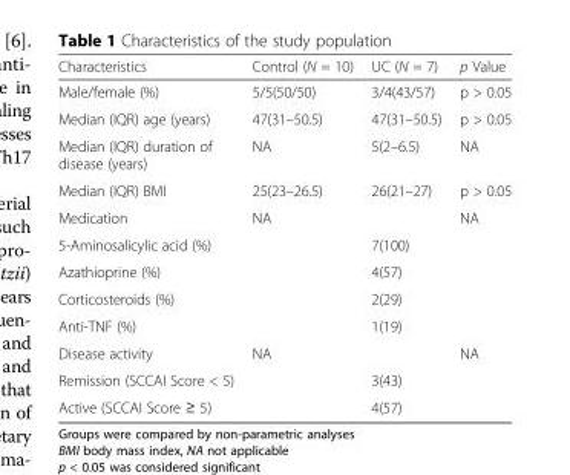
<table><thead><tr><td>Characteristics</td><td>Control (N = 10)</td><td>UC (N = 7)</td><td>p Value</td></tr></thead><tbody><tr><td>Male/female (%)</td><td>5/5(50/50)</td><td>3/4(43/57)</td><td>p &gt; 0.05</td></tr><tr><td>Median (IQR) age (years)</td><td>47(31–50.5)</td><td>47(31–50.5)</td><td>p &gt; 0.05</td></tr><tr><td>Median (IQR) duration of disease (years)</td><td>NA</td><td>5(2–6.5)</td><td>NA</td></tr><tr><td>Median (IQR) BMI</td><td>25(23–26.5)</td><td>26(21–27)</td><td>p &gt; 0.05</td></tr><tr><td>Medication</td><td>NA</td><td></td><td>NA</td></tr><tr><td>5-Aminosalicylic acid (%)</td><td></td><td>7(100)</td><td></td></tr><tr><td>Azathioprine (%)</td><td></td><td>4(57)</td><td></td></tr><tr><td>Corticosteroids (%)</td><td></td><td>2(29)</td><td></td></tr><tr><td>Anti-TNF (%)</td><td></td><td>1(19)</td><td></td></tr><tr><td>Disease activity</td><td>NA</td><td></td><td>NA</td></tr><tr><td>Remission (SCCAI Score &lt; 5)</td><td></td><td>3(43)</td><td></td></tr><tr><td>Active (SCCAI Score ≥ 5)</td><td></td><td>4(57)</td><td></td></tr></tbody></table>